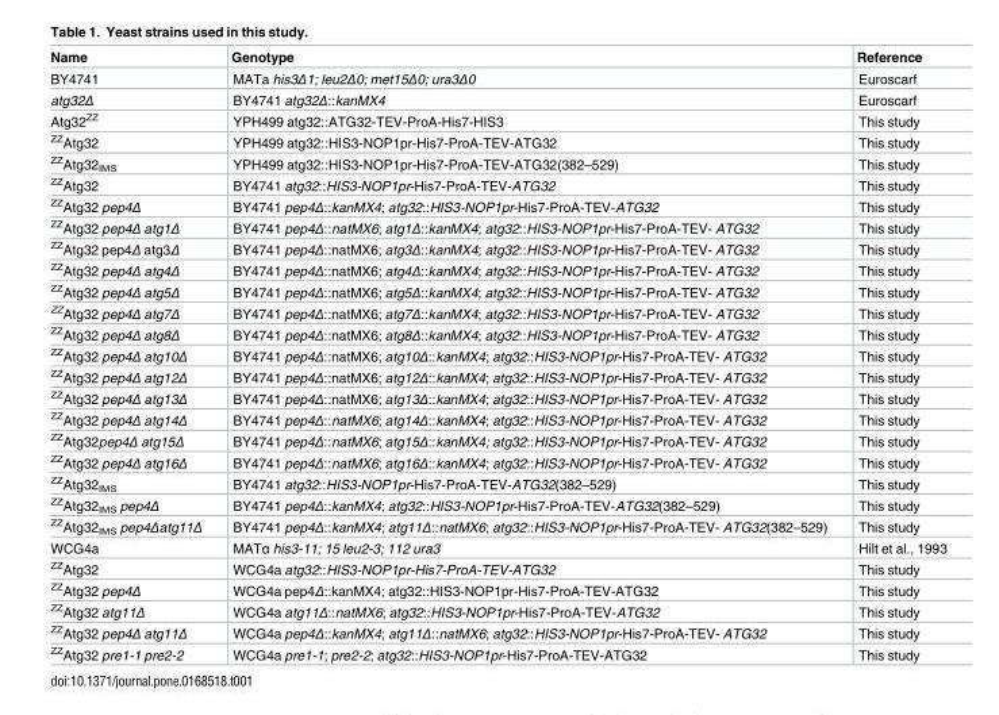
<table><thead><tr><td>Name</td><td>Genotype</td><td>Reference</td></tr></thead><tbody><tr><td>BY4741</td><td>MATa his3Δ1; leu2Δ0; met15Δ0; ura3Δ0</td><td>Euroscarf</td></tr><tr><td>atg32Δ</td><td>BY4741 atg32Δ::kanMX4</td><td>Euroscarf</td></tr><tr><td>Atg32<sup>ZZ</sup></td><td>YPH499 atg32::ATG32-TEV-ProA-His7-HIS3</td><td>This study</td></tr><tr><td><sup>ZZ</sup>Atg32</td><td>YPH499 atg32::HIS3-NOP1pr-His7-ProA-TEV-ATG32</td><td>This study</td></tr><tr><td><sup>ZZ</sup>Atg32<sub>IMS</sub></td><td>YPH499 atg32::HIS3-NOP1pr-His7-ProA-TEV-ATG32(382–529)</td><td>This study</td></tr><tr><td><sup>ZZ</sup>Atg32</td><td>BY4741 atg32::HIS3-NOP1pr-His7-ProA-TEV-ATG32</td><td>This study</td></tr><tr><td><sup>ZZ</sup>Atg32 pep4Δ</td><td>BY4741 pep4Δ::kanMX4; atg32::HIS3-NOP1pr-His7-ProA-TEV-ATG32</td><td>This study</td></tr><tr><td><sup>ZZ</sup>Atg32 pep4Δ atg1Δ</td><td>BY4741 pep4Δ::natMX6; atg1Δ::kanMX4; atg32::HIS3-NOP1pr-His7-ProA-TEV- ATG32</td><td>This study</td></tr><tr><td><sup>ZZ</sup>Atg32 pep4Δ atg3Δ</td><td>BY4741 pep4Δ::natMX6; atg3Δ::kanMX4; atg32::HIS3-NOP1pr-His7-ProA-TEV- ATG32</td><td>This study</td></tr><tr><td><sup>ZZ</sup>Atg32 pep4Δ atg4Δ</td><td>BY4741 pep4Δ::natMX6; atg4Δ::kanMX4; atg32::HIS3-NOP1pr-His7-ProA-TEV- ATG32</td><td>This study</td></tr><tr><td><sup>ZZ</sup>Atg32 pep4Δ atg5Δ</td><td>BY4741 pep4Δ::natMX6; atg5Δ::kanMX4; atg32::HIS3-NOP1pr-His7-ProA-TEV- ATG32</td><td>This study</td></tr><tr><td><sup>ZZ</sup>Atg32 pep4Δ atg7Δ</td><td>BY4741 pep4Δ::natMX6; atg7Δ::kanMX4; atg32::HIS3-NOP1pr-His7-ProA-TEV- ATG32</td><td>This study</td></tr><tr><td><sup>ZZ</sup>Atg32 pep4Δ atg8Δ</td><td>BY4741 pep4Δ::natMX6; atg8Δ::kanMX4; atg32::HIS3-NOP1pr-His7-ProA-TEV- ATG32</td><td>This study</td></tr><tr><td><sup>ZZ</sup>Atg32 pep4Δ atg10Δ</td><td>BY4741 pep4Δ::natMX6; atg10Δ::kanMX4; atg32::HIS3-NOP1pr-His7-ProA-TEV- ATG32</td><td>This study</td></tr><tr><td><sup>ZZ</sup>Atg32 pep4Δ atg12Δ</td><td>BY4741 pep4Δ::natMX6; atg12Δ::kanMX4; atg32::HIS3-NOP1pr-His7-ProA-TEV- ATG32</td><td>This study</td></tr><tr><td><sup>ZZ</sup>Atg32 pep4Δ atg13Δ</td><td>BY4741 pep4Δ::natMX6; atg13Δ::kanMX4; atg32::HIS3-NOP1pr-His7-ProA-TEV- ATG32</td><td>This study</td></tr><tr><td><sup>ZZ</sup>Atg32 pep4Δ atg14Δ</td><td>BY4741 pep4Δ::natMX6; atg14Δ::kanMX4; atg32::HIS3-NOP1pr-His7-ProA-TEV- ATG32</td><td>This study</td></tr><tr><td><sup>ZZ</sup>Atg32pep4Δ atg15Δ</td><td>BY4741 pep4Δ::natMX6; atg15Δ::kanMX4; atg32::HIS3-NOP1pr-His7-ProA-TEV- ATG32</td><td>This study</td></tr><tr><td><sup>ZZ</sup>Atg32 pep4Δ atg16Δ</td><td>BY4741 pep4Δ::natMX6; atg16Δ::kanMX4; atg32::HIS3-NOP1pr-His7-ProA-TEV- ATG32</td><td>This study</td></tr><tr><td><sup>ZZ</sup>Atg32<sub>IMS</sub></td><td>BY4741 atg32::HIS3-NOP1pr-His7-ProA-TEV-ATG32(382–529)</td><td>This study</td></tr><tr><td><sup>ZZ</sup>Atg32<sub>IMS</sub> pep4Δ</td><td>BY4741 pep4Δ::kanMX4; atg32::HIS3-NOP1pr-His7-ProA-TEV-ATG32(382–529)</td><td>This study</td></tr><tr><td><sup>ZZ</sup>Atg32<sub>IMS</sub> pep4Δatg11Δ</td><td>BY4741 pep4Δ::kanMX4; atg11Δ::natMX6; atg32::HIS3-NOP1pr-His7-ProA-TEV- ATG32(382–529)</td><td>This study</td></tr><tr><td>WCG4a</td><td>MATα his3-11; 15 leu2-3; 112 ura3</td><td>Hilt et al., 1993</td></tr><tr><td><sup>ZZ</sup>Atg32</td><td>WCG4a atg32::HIS3-NOP1pr-His7-ProA-TEV-ATG32</td><td>This study</td></tr><tr><td><sup>ZZ</sup>Atg32 pep4Δ</td><td>WCG4a pep4Δ::kanMX4; atg32::HIS3-NOP1pr-His7-ProA-TEV-ATG32</td><td>This study</td></tr><tr><td><sup>ZZ</sup>Atg32 atg11Δ</td><td>WCG4a atg11Δ::natMX6; atg32::HIS3-NOP1pr-His7-ProA-TEV-ATG32</td><td>This study</td></tr><tr><td><sup>ZZ</sup>Atg32 pep4Δ atg11Δ</td><td>WCG4a pep4Δ::kanMX4; atg11Δ::natMX6; atg32::HIS3-NOP1pr-His7-ProA-TEV- ATG32</td><td>This study</td></tr><tr><td><sup>ZZ</sup>Atg32 pre1-1 pre2-2</td><td>WCG4a pre1-1; pre2-2; atg32::HIS3-NOP1pr-His7-ProA-TEV-ATG32</td><td>This study</td></tr></tbody></table>